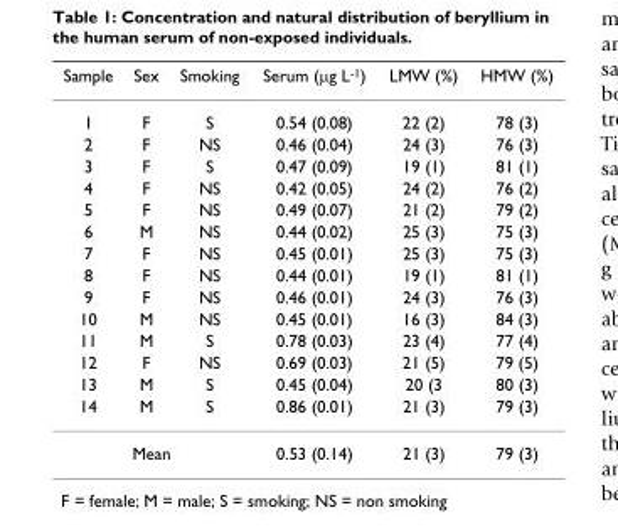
<table><thead><tr><td>Sample</td><td>Sex</td><td>Smoking</td><td>Serum (µg L<sup>-1</sup>)</td><td>LMW (%)</td><td>HMW (%)</td></tr></thead><tbody><tr><td>1</td><td>F</td><td>S</td><td>0.54 (0.08)</td><td>22 (2)</td><td>78 (3)</td></tr><tr><td>2</td><td>F</td><td>NS</td><td>0.46 (0.04)</td><td>24 (3)</td><td>76 (3)</td></tr><tr><td>3</td><td>F</td><td>S</td><td>0.47 (0.09)</td><td>19 (1)</td><td>81 (1)</td></tr><tr><td>4</td><td>F</td><td>NS</td><td>0.42 (0.05)</td><td>24 (2)</td><td>76 (2)</td></tr><tr><td>5</td><td>F</td><td>NS</td><td>0.49 (0.07)</td><td>21 (2)</td><td>79 (2)</td></tr><tr><td>6</td><td>M</td><td>NS</td><td>0.44 (0.02)</td><td>25 (3)</td><td>75 (3)</td></tr><tr><td>7</td><td>F</td><td>NS</td><td>0.45 (0.01)</td><td>25 (3)</td><td>75 (3)</td></tr><tr><td>8</td><td>F</td><td>NS</td><td>0.44 (0.01)</td><td>19 (1)</td><td>81 (1)</td></tr><tr><td>9</td><td>F</td><td>NS</td><td>0.46 (0.01)</td><td>24 (3)</td><td>76 (3)</td></tr><tr><td>10</td><td>M</td><td>NS</td><td>0.45 (0.01)</td><td>16 (3)</td><td>84 (3)</td></tr><tr><td>11</td><td>M</td><td>S</td><td>0.78 (0.03)</td><td>23 (4)</td><td>77 (4)</td></tr><tr><td>12</td><td>F</td><td>NS</td><td>0.69 (0.03)</td><td>21 (5)</td><td>79 (5)</td></tr><tr><td>13</td><td>M</td><td>S</td><td>0.45 (0.04)</td><td>20 (3</td><td>80 (3)</td></tr><tr><td>14</td><td>M</td><td>S</td><td>0.86 (0.01)</td><td>21 (3)</td><td>79 (3)</td></tr><tr><td colspan="3">Mean</td><td>0.53 (0.14)</td><td>21 (3)</td><td>79 (3)</td></tr></tbody></table>